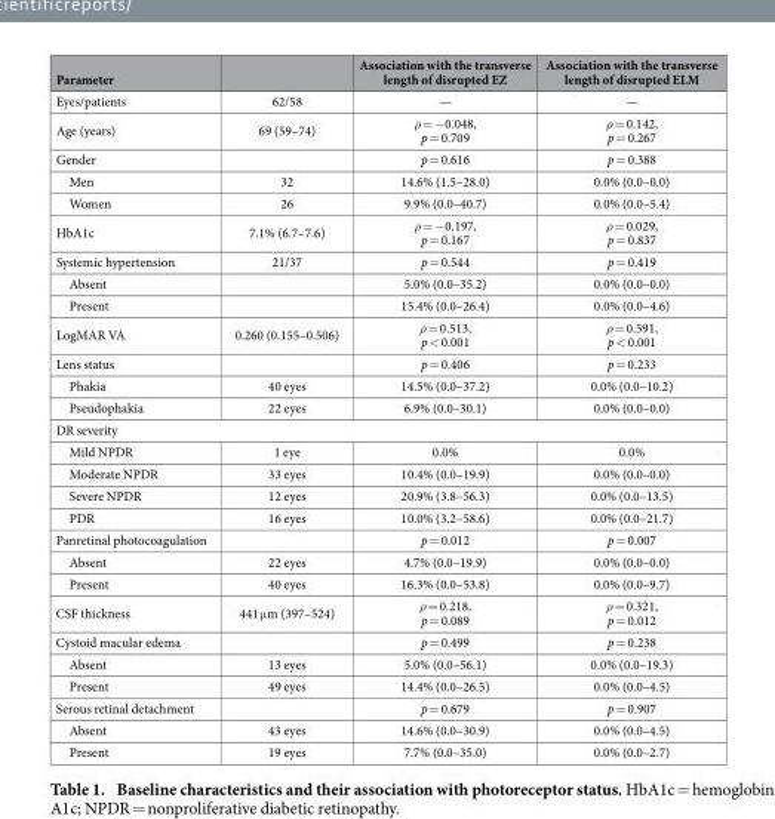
<table><thead><tr><td>Parameter</td><td></td><td>Association with the transverse length of disrupted EZ</td><td>Association with the transverse length of disrupted ELM</td></tr></thead><tbody><tr><td>Eyes/patients</td><td>62/58</td><td>—</td><td>—</td></tr><tr><td>Age (years)</td><td>69 (59–74)</td><td>ρ = − 0.048, p = 0.709</td><td>ρ = 0.142, p = 0.267</td></tr><tr><td>Gender</td><td></td><td>p = 0.616</td><td>p = 0.388</td></tr><tr><td>Men</td><td>32</td><td>14.6% (1.5–28.0)</td><td>0.0% (0.0–0.0)</td></tr><tr><td>Women</td><td>26</td><td>9.9% (0.0–40.7)</td><td>0.0% (0.0–5.4)</td></tr><tr><td>HbA1c</td><td>7.1% (6.7–7.6)</td><td>ρ = − 0.197, p = 0.167</td><td>ρ = 0.029, p = 0.837</td></tr><tr><td>Systemic hypertension</td><td>21/37</td><td>p = 0.544</td><td>p = 0.419</td></tr><tr><td>Absent</td><td></td><td>5.0% (0.0–35.2)</td><td>0.0% (0.0–0.0)</td></tr><tr><td>Present</td><td></td><td>15.4% (0.0–26.4)</td><td>0.0% (0.0–4.6)</td></tr><tr><td>LogMAR VA</td><td>0.260 (0.155–0.506)</td><td>ρ = 0.513, p &lt; 0.001</td><td>ρ = 0.591, p &lt; 0.001</td></tr><tr><td>Lens status</td><td></td><td>p = 0.406</td><td>p = 0.233</td></tr><tr><td>Phakia</td><td>40 eyes</td><td>14.5% (0.0–37.2)</td><td>0.0% (0.0–10.2)</td></tr><tr><td>Pseudophakia</td><td>22 eyes</td><td>6.9% (0.0–30.1)</td><td>0.0% (0.0–0.0)</td></tr><tr><td colspan="4">DR severity</td></tr><tr><td>Mild NPDR</td><td>1 eye</td><td>0.0%</td><td>0.0%</td></tr><tr><td>Moderate NPDR</td><td>33 eyes</td><td>10.4% (0.0–19.9)</td><td>0.0% (0.0–0.0)</td></tr><tr><td>Severe NPDR</td><td>12 eyes</td><td>20.9% (3.8–56.3)</td><td>0.0% (0.0–13.5)</td></tr><tr><td>PDR</td><td>16 eyes</td><td>10.0% (3.2–58.6)</td><td>0.0% (0.0–21.7)</td></tr><tr><td>Panretinal photocoagulation</td><td></td><td>p = 0.012</td><td>p = 0.007</td></tr><tr><td>Absent</td><td>22 eyes</td><td>4.7% (0.0–19.9)</td><td>0.0% (0.0–0.0)</td></tr><tr><td>Present</td><td>40 eyes</td><td>16.3% (0.0–53.8)</td><td>0.0% (0.0–9.7)</td></tr><tr><td>CSF thickness</td><td>441 μ m (397–524)</td><td>ρ = 0.218, p = 0.089</td><td>ρ = 0.321, p = 0.012</td></tr><tr><td>Cystoid macular edema</td><td></td><td>p = 0.499</td><td>p = 0.238</td></tr><tr><td>Absent</td><td>13 eyes</td><td>5.0% (0.0–56.1)</td><td>0.0% (0.0–19.3)</td></tr><tr><td>Present</td><td>49 eyes</td><td>14.4% (0.0–26.5)</td><td>0.0% (0.0–4.5)</td></tr><tr><td>Serous retinal detachment</td><td></td><td>p = 0.679</td><td>p = 0.907</td></tr><tr><td>Absent</td><td>43 eyes</td><td>14.6% (0.0–30.9)</td><td>0.0% (0.0–4.5)</td></tr><tr><td>Present</td><td>19 eyes</td><td>7.7% (0.0–35.0)</td><td>0.0% (0.0–2.7)</td></tr></tbody></table>